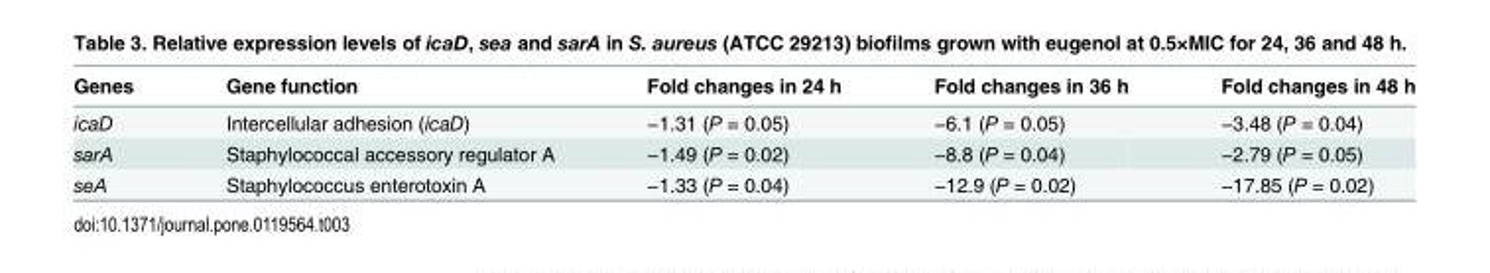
<table><thead><tr><td>Genes</td><td>Gene function</td><td>Fold changes in 24 h</td><td>Fold changes in 36 h</td><td>Fold changes in 48 h</td></tr></thead><tbody><tr><td>icaD</td><td>Intercellular adhesion (icaD)</td><td>−1.31 (P = 0.05)</td><td>−6.1 (P = 0.05)</td><td>−3.48 (P = 0.04)</td></tr><tr><td>sarA</td><td>Staphylococcal accessory regulator A</td><td>−1.49 (P = 0.02)</td><td>−8.8 (P = 0.04)</td><td>−2.79 (P = 0.05)</td></tr><tr><td>seA</td><td>Staphylococcus enterotoxin A</td><td>−1.33 (P = 0.04)</td><td>−12.9 (P = 0.02)</td><td>−17.85 (P = 0.02)</td></tr></tbody></table>